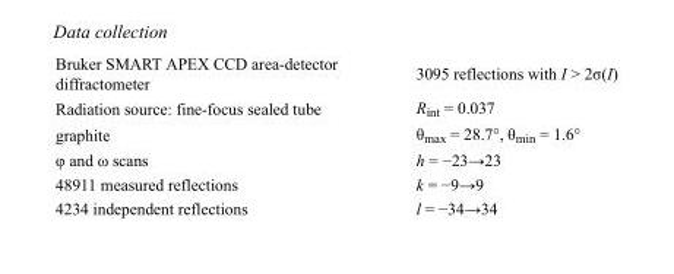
<table><tbody><tr><td>Bruker SMART APEX CCD area-detector diffractometer</td><td>3095 reflections with I &gt; 2σ(I)</td></tr><tr><td>Radiation source: fine-focus sealed tube</td><td>R<sub>int</sub> = 0.037</td></tr><tr><td>graphite</td><td>θ<sub>max</sub> = 28.7°, θ<sub>min</sub> = 1.6°</td></tr><tr><td>φ and ω scans</td><td>h = −23→23</td></tr><tr><td>48911 measured reflections</td><td>k = −9→9</td></tr><tr><td>4234 independent reflections</td><td>l = −34→34</td></tr></tbody></table>